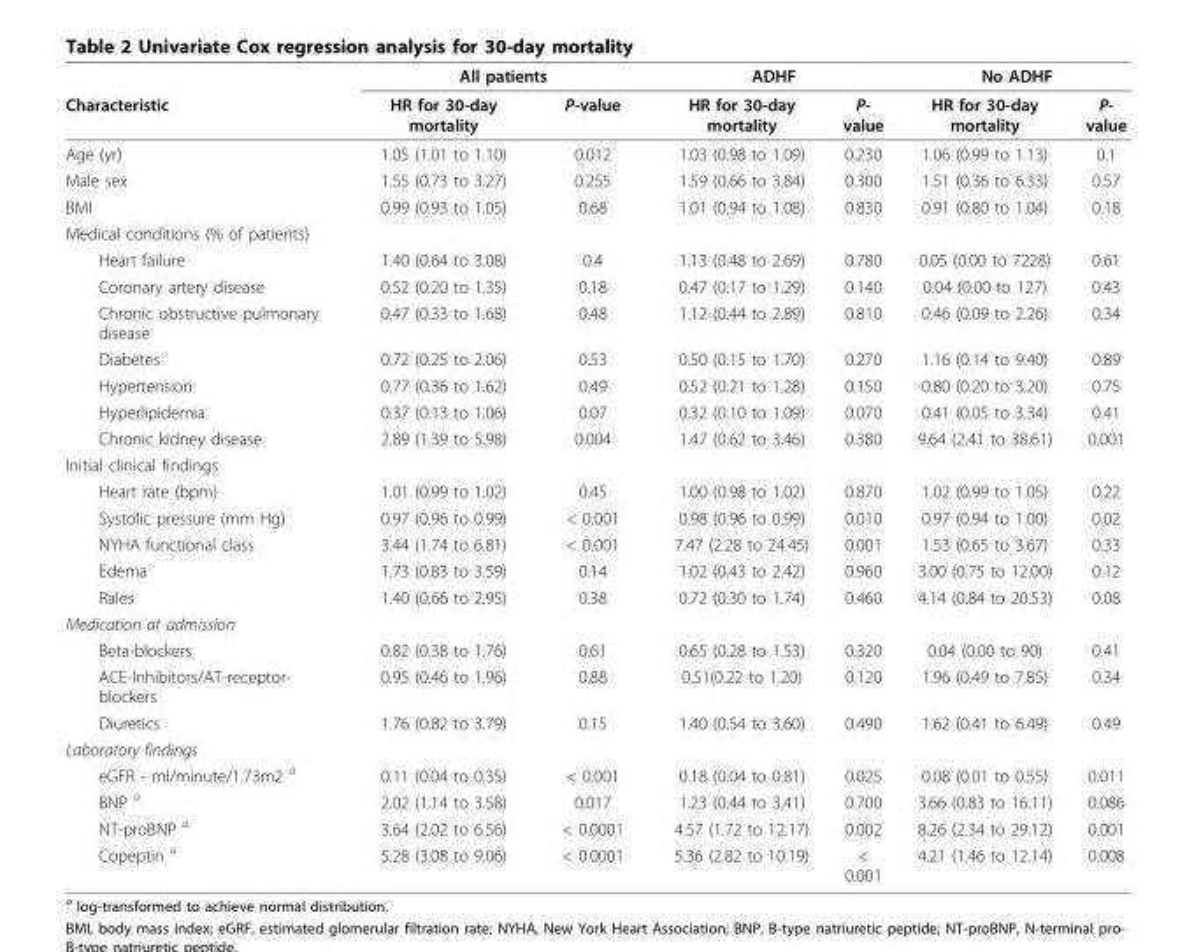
<table><thead><tr><td rowspan="2">Characteristic</td><td colspan="2">All patients</td><td colspan="2">ADHF</td><td colspan="2">No ADHF</td></tr><tr><td>HR for 30-day mortality</td><td>P-value</td><td>HR for 30-day mortality</td><td>P- value</td><td>HR for 30-day mortality</td><td>P- value</td></tr></thead><tbody><tr><td>Age (yr)</td><td>1.05 (1.01 to 1.10)</td><td>0.012</td><td>1.03 (0.98 to 1.09)</td><td>0.230</td><td>1.06 (0.99 to 1.13)</td><td>0.1</td></tr><tr><td>Male sex</td><td>1.55 (0.73 to 3.27)</td><td>0.255</td><td>1.59 (0.66 to 3.84)</td><td>0.300</td><td>1.51 (0.36 to 6.33)</td><td>0.57</td></tr><tr><td>BMI</td><td>0.99 (0.93 to 1.05)</td><td>0.68</td><td>1.01 (0.94 to 1.08)</td><td>0.830</td><td>0.91 (0.80 to 1.04)</td><td>0.18</td></tr><tr><td colspan="7">Medical conditions (% of patients)</td></tr><tr><td>Heart failure</td><td>1.40 (0.64 to 3.08)</td><td>0.4</td><td>1.13 (0.48 to 2.69)</td><td>0.780</td><td>0.05 (0.00 to 7228)</td><td>0.61</td></tr><tr><td>Coronary artery disease</td><td>0.52 (0.20 to 1.35)</td><td>0.18</td><td>0.47 (0.17 to 1.29)</td><td>0.140</td><td>0.04 (0.00 to 127)</td><td>0.43</td></tr><tr><td>Chronic obstructive pulmonary disease</td><td>0.47 (0.33 to 1.68)</td><td>0.48</td><td>1.12 (0.44 to 2.89)</td><td>0.810</td><td>0.46 (0.09 to 2.26)</td><td>0.34</td></tr><tr><td>Diabetes</td><td>0.72 (0.25 to 2.06)</td><td>0.53</td><td>0.50 (0.15 to 1.70)</td><td>0.270</td><td>1.16 (0.14 to 9.40)</td><td>0.89</td></tr><tr><td>Hypertension</td><td>0.77 (0.36 to 1.62)</td><td>0.49</td><td>0.52 (0.21 to 1.28)</td><td>0.150</td><td>0.80 (0.20 to 3.20)</td><td>0.75</td></tr><tr><td>Hyperlipidemia</td><td>0.37 (0.13 to 1.06)</td><td>0.07</td><td>0.32 (0.10 to 1.09)</td><td>0.070</td><td>0.41 (0.05 to 3.34)</td><td>0.41</td></tr><tr><td>Chronic kidney disease</td><td>2.89 (1.39 to 5.98)</td><td>0.004</td><td>1.47 (0.62 to 3.46)</td><td>0.380</td><td>9.64 (2.41 to 38.61)</td><td>0.001</td></tr><tr><td colspan="7">Initial clinical findings</td></tr><tr><td>Heart rate (bpm)</td><td>1.01 (0.99 to 1.02)</td><td>0.45</td><td>1.00 (0.98 to 1.02)</td><td>0.870</td><td>1.02 (0.99 to 1.05)</td><td>0.22</td></tr><tr><td>Systolic pressure (mm Hg)</td><td>0.97 (0.96 to 0.99)</td><td>&lt; 0.001</td><td>0.98 (0.96 to 0.99)</td><td>0.010</td><td>0.97 (0.94 to 1.00)</td><td>0.02</td></tr><tr><td>NYHA functional class</td><td>3.44 (1.74 to 6.81)</td><td>&lt; 0.001</td><td>7.47 (2.28 to 24.45)</td><td>0.001</td><td>1.53 (0.65 to 3.67)</td><td>0.33</td></tr><tr><td>Edema</td><td>1.73 (0.83 to 3.59)</td><td>0.14</td><td>1.02 (0.43 to 2.42)</td><td>0.960</td><td>3.00 (0.75 to 12.00)</td><td>0.12</td></tr><tr><td>Rales</td><td>1.40 (0.66 to 2.95)</td><td>0.38</td><td>0.72 (0.30 to 1.74)</td><td>0.460</td><td>4.14 (0.84 to 20.53)</td><td>0.08</td></tr><tr><td colspan="7">Medication at admission</td></tr><tr><td>Beta-blockers</td><td>0.82 (0.38 to 1.76)</td><td>0.61</td><td>0.65 (0.28 to 1.53)</td><td>0.320</td><td>0.04 (0.00 to 90)</td><td>0.41</td></tr><tr><td>ACE-Inhibitors/AT-receptor- blockers</td><td>0.95 (0.46 to 1.96)</td><td>0.88</td><td>0.51(0.22 to 1.20)</td><td>0.120</td><td>1.96 (0.49 to 7.85)</td><td>0.34</td></tr><tr><td>Diuretics</td><td>1.76 (0.82 to 3.79)</td><td>0.15</td><td>1.40 (0.54 to 3.60)</td><td>0.490</td><td>1.62 (0.41 to 6.49)</td><td>0.49</td></tr><tr><td colspan="7">Laboratory findings</td></tr><tr><td>eGFR - ml/minute/1.73m2 <sup>a</sup></td><td>0.11 (0.04 to 0.35)</td><td>&lt; 0.001</td><td>0.18 (0.04 to 0.81)</td><td>0.025</td><td>0.08 (0.01 to 0.55)</td><td>0.011</td></tr><tr><td>BNP <sup>a</sup></td><td>2.02 (1.14 to 3.58)</td><td>0.017</td><td>1.23 (0.44 to 3.41)</td><td>0.700</td><td>3.66 (0.83 to 16.11)</td><td>0.086</td></tr><tr><td>NT-proBNP <sup>a</sup></td><td>3.64 (2.02 to 6.56)</td><td>&lt; 0.0001</td><td>4.57 (1.72 to 12.17)</td><td>0.002</td><td>8.26 (2.34 to 29.12)</td><td>0.001</td></tr><tr><td>Copeptin <sup>a</sup></td><td>5.28 (3.08 to 9.06)</td><td>&lt; 0.0001</td><td>5.36 (2.82 to 10.19)</td><td>&lt; 0.001</td><td>4.21 (1.46 to 12.14)</td><td>0.008</td></tr></tbody></table>